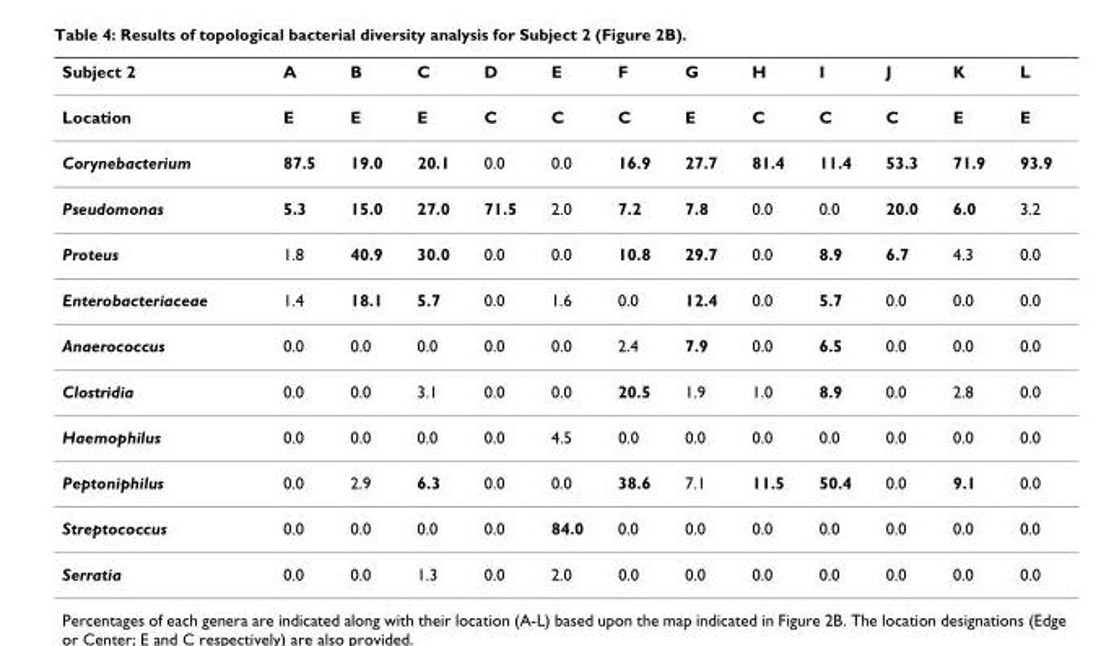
<table><thead><tr><td>Subject 2</td><td>A</td><td>B</td><td>C</td><td>D</td><td>E</td><td>F</td><td>G</td><td>H</td><td>I</td><td>J</td><td>K</td><td>L</td></tr></thead><tbody><tr><td>Location</td><td>E</td><td>E</td><td>E</td><td>C</td><td>C</td><td>C</td><td>E</td><td>C</td><td>C</td><td>C</td><td>E</td><td>E</td></tr><tr><td>Corynebacterium</td><td>87.5</td><td>19.0</td><td>20.1</td><td>0.0</td><td>0.0</td><td>16.9</td><td>27.7</td><td>81.4</td><td>11.4</td><td>53.3</td><td>71.9</td><td>93.9</td></tr><tr><td>Pseudomonas</td><td>5.3</td><td>15.0</td><td>27.0</td><td>71.5</td><td>2.0</td><td>7.2</td><td>7.8</td><td>0.0</td><td>0.0</td><td>20.0</td><td>6.0</td><td>3.2</td></tr><tr><td>Proteus</td><td>1.8</td><td>40.9</td><td>30.0</td><td>0.0</td><td>0.0</td><td>10.8</td><td>29.7</td><td>0.0</td><td>8.9</td><td>6.7</td><td>4.3</td><td>0.0</td></tr><tr><td>Enterobacteriaceae</td><td>1.4</td><td>18.1</td><td>5.7</td><td>0.0</td><td>1.6</td><td>0.0</td><td>12.4</td><td>0.0</td><td>5.7</td><td>0.0</td><td>0.0</td><td>0.0</td></tr><tr><td>Anaerococcus</td><td>0.0</td><td>0.0</td><td>0.0</td><td>0.0</td><td>0.0</td><td>2.4</td><td>7.9</td><td>0.0</td><td>6.5</td><td>0.0</td><td>0.0</td><td>0.0</td></tr><tr><td>Clostridia</td><td>0.0</td><td>0.0</td><td>3.1</td><td>0.0</td><td>0.0</td><td>20.5</td><td>1.9</td><td>1.0</td><td>8.9</td><td>0.0</td><td>2.8</td><td>0.0</td></tr><tr><td>Haemophilus</td><td>0.0</td><td>0.0</td><td>0.0</td><td>0.0</td><td>4.5</td><td>0.0</td><td>0.0</td><td>0.0</td><td>0.0</td><td>0.0</td><td>0.0</td><td>0.0</td></tr><tr><td>Peptoniphilus</td><td>0.0</td><td>2.9</td><td>6.3</td><td>0.0</td><td>0.0</td><td>38.6</td><td>7.1</td><td>11.5</td><td>50.4</td><td>0.0</td><td>9.1</td><td>0.0</td></tr><tr><td>Streptococcus</td><td>0.0</td><td>0.0</td><td>0.0</td><td>0.0</td><td>84.0</td><td>0.0</td><td>0.0</td><td>0.0</td><td>0.0</td><td>0.0</td><td>0.0</td><td>0.0</td></tr><tr><td>Serratia</td><td>0.0</td><td>0.0</td><td>1.3</td><td>0.0</td><td>2.0</td><td>0.0</td><td>0.0</td><td>0.0</td><td>0.0</td><td>0.0</td><td>0.0</td><td>0.0</td></tr></tbody></table>